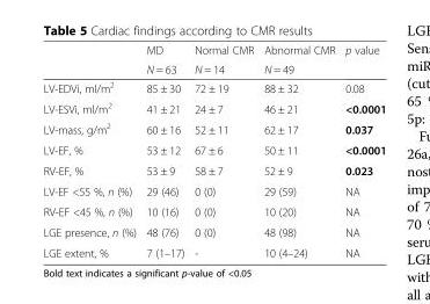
<table><thead><tr><td rowspan="2"></td><td rowspan="2">MD N = 63</td><td rowspan="2">Normal CMR N = 14</td><td rowspan="2">Abnormal CMR N = 49</td><td rowspan="2">p value</td></tr><tr></tr></thead><tbody><tr><td>LV-EDVi, ml/m<sup>2</sup></td><td>85 ± 30</td><td>72 ± 19</td><td>88 ± 32</td><td>0.08</td></tr><tr><td>LV-ESVi, ml/m<sup>2</sup></td><td>41 ± 21</td><td>24 ± 7</td><td>46 ± 21</td><td>&lt;0.0001</td></tr><tr><td>LV-mass, g/m<sup>2</sup></td><td>60 ± 16</td><td>52 ± 11</td><td>62 ± 17</td><td>0.037</td></tr><tr><td>LV-EF, %</td><td>53 ± 12</td><td>67 ± 6</td><td>50 ± 11</td><td>&lt;0.0001</td></tr><tr><td>RV-EF, %</td><td>53 ± 9</td><td>58 ± 7</td><td>52 ± 9</td><td>0.023</td></tr><tr><td>LV-EF &lt;55 %, n (%)</td><td>29 (46)</td><td>0 (0)</td><td>29 (59)</td><td>NA</td></tr><tr><td>RV-EF &lt;45 %, n (%)</td><td>10 (16)</td><td>0 (0)</td><td>10 (20)</td><td>NA</td></tr><tr><td>LGE presence, n (%)</td><td>48 (76)</td><td>0 (0)</td><td>48 (98)</td><td>NA</td></tr><tr><td>LGE extent, %</td><td>7 (1–17)</td><td>-</td><td>10 (4–24)</td><td>NA</td></tr></tbody></table>